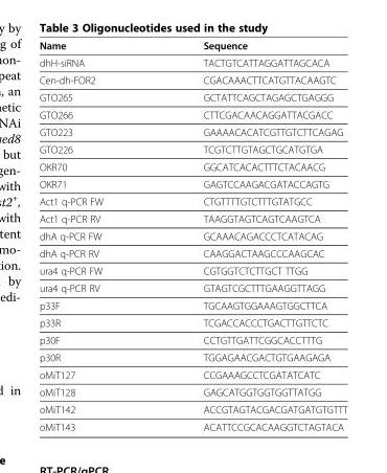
<table><thead><tr><td>Name</td><td>Sequence</td></tr></thead><tbody><tr><td>dhH-siRNA</td><td>TACTGTCATTAGGATTAGCACA</td></tr><tr><td>Cen-dh-FOR2</td><td>CGACAAACTTCATGTTACAAGTC</td></tr><tr><td>GTO265</td><td>GCTATTCAGCTAGAGCTGAGGG</td></tr><tr><td>GTO266</td><td>CTTCGACAACAGGATTACGACC</td></tr><tr><td>GTO223</td><td>GAAAACACATCGTTGTCTTCAGAG</td></tr><tr><td>GTO226</td><td>TCGTCTTGTAGCTGCATGTGA</td></tr><tr><td>OKR70</td><td>GGCATCACACTTTCTACAACG</td></tr><tr><td>OKR71</td><td>GAGTCCAAGACGATACCAGTG</td></tr><tr><td>Act1 q-PCR FW</td><td>CTGTTTTGTCTTTGTATGCC</td></tr><tr><td>Act1 q-PCR RV</td><td>TAAGGTAGTCAGTCAAGTCA</td></tr><tr><td>dhA q-PCR FW</td><td>GCAAACAGACCCTCATACAG</td></tr><tr><td>dhA q-PCR RV</td><td>CAAGGACTAAGCCCAAGCAC</td></tr><tr><td>ura4 q-PCR FW</td><td>CGTGGTCTCTTGCT TTGG</td></tr><tr><td>ura4 q-PCR RV</td><td>GTAGTCGCTTTGAAGGTTAGG</td></tr><tr><td>p33F</td><td>TGCAAGTGGAAAGTGGCTTCA</td></tr><tr><td>p33R</td><td>TCGACCACCCTGACTTGTTCTC</td></tr><tr><td>p30F</td><td>CCTGTTGATTCGGCACCTTTG</td></tr><tr><td>p30R</td><td>TGGAGAACGACTGTGAAGAGA</td></tr><tr><td>oMiT127</td><td>CCGAAAGCCTCGATATCATC</td></tr><tr><td>oMiT128</td><td>GAGCATGGTGGTGGTTATGG</td></tr><tr><td>oMiT142</td><td>ACCGTAGTACGACGATGATGTGTTT</td></tr><tr><td>oMiT143</td><td>ACATTCCGCACAAGGTCTAGTACA</td></tr></tbody></table>